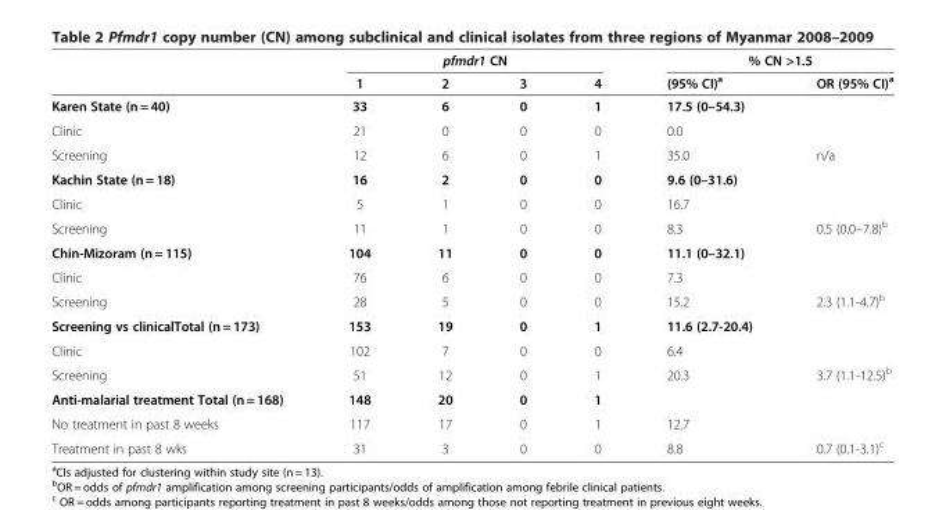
<table><thead><tr><td rowspan="2"></td><td colspan="4">pfmdr1 CN</td><td colspan="2">% CN &gt;1.5</td></tr><tr><td>1</td><td>2</td><td>3</td><td>4</td><td>(95% CI)<sup>a</sup></td><td>OR (95% CI)<sup>a</sup></td></tr></thead><tbody><tr><td>Karen State (n = 40)</td><td>33</td><td>6</td><td>0</td><td>1</td><td>17.5 (0–54.3)</td><td></td></tr><tr><td>Clinic</td><td>21</td><td>0</td><td>0</td><td>0</td><td>0.0</td><td></td></tr><tr><td>Screening</td><td>12</td><td>6</td><td>0</td><td>1</td><td>35.0</td><td>n/a</td></tr><tr><td>Kachin State (n = 18)</td><td>16</td><td>2</td><td>0</td><td>0</td><td>9.6 (0–31.6)</td><td></td></tr><tr><td>Clinic</td><td>5</td><td>1</td><td>0</td><td>0</td><td>16.7</td><td></td></tr><tr><td>Screening</td><td>11</td><td>1</td><td>0</td><td>0</td><td>8.3</td><td>0.5 (0.0–7.8)<sup>b</sup></td></tr><tr><td>Chin-Mizoram (n = 115)</td><td>104</td><td>11</td><td>0</td><td>0</td><td>11.1 (0–32.1)</td><td></td></tr><tr><td>Clinic</td><td>76</td><td>6</td><td>0</td><td>0</td><td>7.3</td><td></td></tr><tr><td>Screening</td><td>28</td><td>5</td><td>0</td><td>0</td><td>15.2</td><td>2.3 (1.1-4.7)<sup>b</sup></td></tr><tr><td>Screening vs clinicalTotal (n = 173)</td><td>153</td><td>19</td><td>0</td><td>1</td><td>11.6 (2.7-20.4)</td><td></td></tr><tr><td>Clinic</td><td>102</td><td>7</td><td>0</td><td>0</td><td>6.4</td><td></td></tr><tr><td>Screening</td><td>51</td><td>12</td><td>0</td><td>1</td><td>20.3</td><td>3.7 (1.1-12.5)<sup>b</sup></td></tr><tr><td>Anti-malarial treatment Total (n = 168)</td><td>148</td><td>20</td><td>0</td><td>1</td><td></td><td></td></tr><tr><td>No treatment in past 8 weeks</td><td>117</td><td>17</td><td>0</td><td>1</td><td>12.7</td><td></td></tr><tr><td>Treatment in past 8 wks</td><td>31</td><td>3</td><td>0</td><td>0</td><td>8.8</td><td>0.7 (0.1-3.1)<sup>c</sup></td></tr></tbody></table>